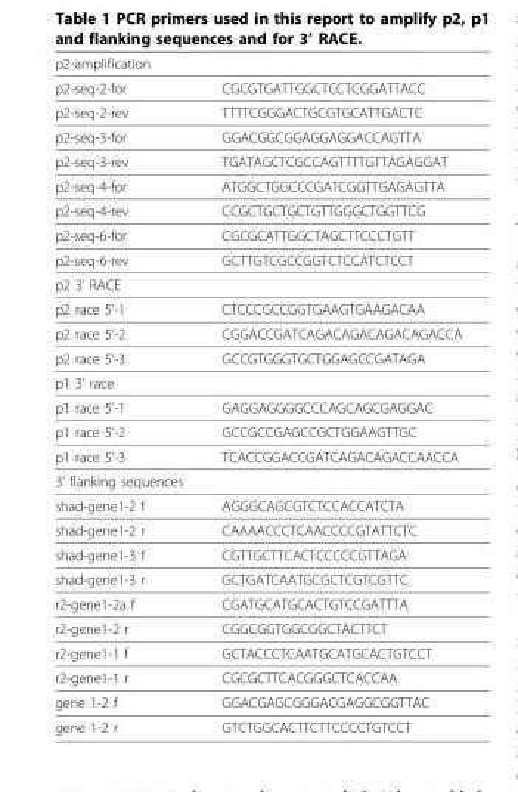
<table><thead><tr><td>p2-amplification</td><td></td></tr></thead><tbody><tr><td>p2-seq-2-for</td><td>CGCGTGATTGGCTCCTCGGATTACC</td></tr><tr><td>p2-seq-2-rev</td><td>TTTTCGGGACTGCGTGCATTGACTC</td></tr><tr><td>p2-seq-3-for</td><td>GGACGGCGGAGGAGGACCAGTTA</td></tr><tr><td>p2-seq-3-rev</td><td>TGATAGCTCGCCAGTTTTGTTAGAGGAT</td></tr><tr><td>p2-seq-4-for</td><td>ATGGCTGGCCCGATCGGTTGAGAGTTA</td></tr><tr><td>p2-seq-4-rev</td><td>CCGCTGCTGCTGTTGGGCTGGTTCG</td></tr><tr><td>p2-seq-6-for</td><td>CGCGCATTGGCTAGCTTCCCTGTT</td></tr><tr><td>p2-seq-6-rev</td><td>GCTTGTCGCCGGTCTCCATCTCCT</td></tr><tr><td colspan="2">p2 3’ RACE</td></tr><tr><td>p2 race 5’-1</td><td>CTCCCGCCGGTGAAGTGAAGACAA</td></tr><tr><td>p2 race 5’-2</td><td>CGGACCGATCAGACAGACAGACAGACCA</td></tr><tr><td>p2 race 5’-3</td><td>GCCGTGGGTGCTGGAGCCGATAGA</td></tr><tr><td colspan="2">p1 3’ race</td></tr><tr><td>p1 race 5’-1</td><td>GAGGAGGGGCCCAGCAGCGAGGAC</td></tr><tr><td>p1 race 5’-2</td><td>GCCGCCGAGCCGCTGGAAGTTGC</td></tr><tr><td>p1 race 5’-3</td><td>TCACCGGACCGATCAGACAGACCAACCA</td></tr><tr><td colspan="2">3’ flanking sequences</td></tr><tr><td>shad-gene1-2 f</td><td>AGGGCAGCGTCTCCACCATCTA</td></tr><tr><td>shad-gene1-2 r</td><td>CAAAACCCTCAACCCCGTATTCTC</td></tr><tr><td>shad-gene1-3 f</td><td>CGTTGCTTCACTCCCCCGTTAGA</td></tr><tr><td>shad-gene1-3 r</td><td>GCTGATCAATGCGCTCGTCGTTC</td></tr><tr><td>r2-gene1-2a f</td><td>CGATGCATGCACTGTCCGATTTA</td></tr><tr><td>r2-gene1-2 r</td><td>CGGCGGTGGCGGCTACTTCT</td></tr><tr><td>r2-gene1-1 f</td><td>GCTACCCTCAATGCATGCACTGTCCT</td></tr><tr><td>r2-gene1-1 r</td><td>CGCGCTTCACGGGCTCACCAA</td></tr><tr><td>gene 1-2 f</td><td>GGACGAGCGGGACGAGGCGGTTAC</td></tr><tr><td>gene 1-2 r</td><td>GTCTGGCACTTCTTCCCCTGTCCT</td></tr></tbody></table>